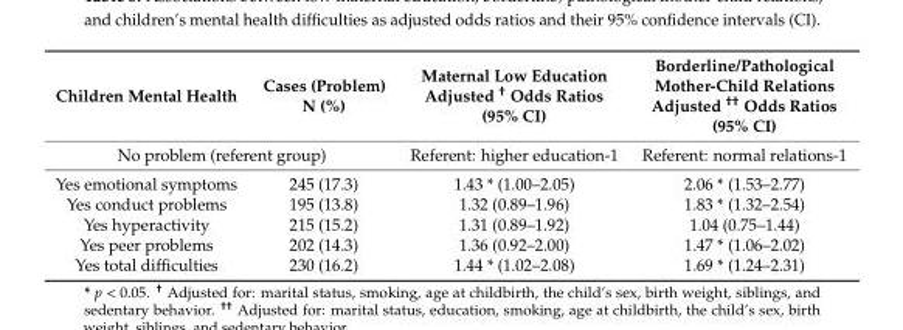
<table><thead><tr><td>Children Mental Health</td><td>Cases (Problem) N (%)</td><td>Maternal Low Education Adjusted <sup>†</sup> Odds Ratios (95% CI)</td><td>Borderline/Pathological Mother-Child Relations Adjusted <sup>††</sup> Odds Ratios (95% CI)</td></tr></thead><tbody><tr><td colspan="2">No problem (referent group)</td><td>Referent: higher education-1</td><td>Referent: normal relations-1</td></tr><tr><td>Yes emotional symptoms</td><td>245 (17.3)</td><td>1.43 * (1.00–2.05)</td><td>2.06 * (1.53–2.77)</td></tr><tr><td>Yes conduct problems</td><td>195 (13.8)</td><td>1.32 (0.89–1.96)</td><td>1.83 * (1.32–2.54)</td></tr><tr><td>Yes hyperactivity</td><td>215 (15.2)</td><td>1.31 (0.89–1.92)</td><td>1.04 (0.75–1.44)</td></tr><tr><td>Yes peer problems</td><td>202 (14.3)</td><td>1.36 (0.92–2.00)</td><td>1.47 * (1.06–2.02)</td></tr><tr><td>Yes total difficulties</td><td>230 (16.2)</td><td>1.44 * (1.02–2.08)</td><td>1.69 * (1.24–2.31)</td></tr></tbody></table>